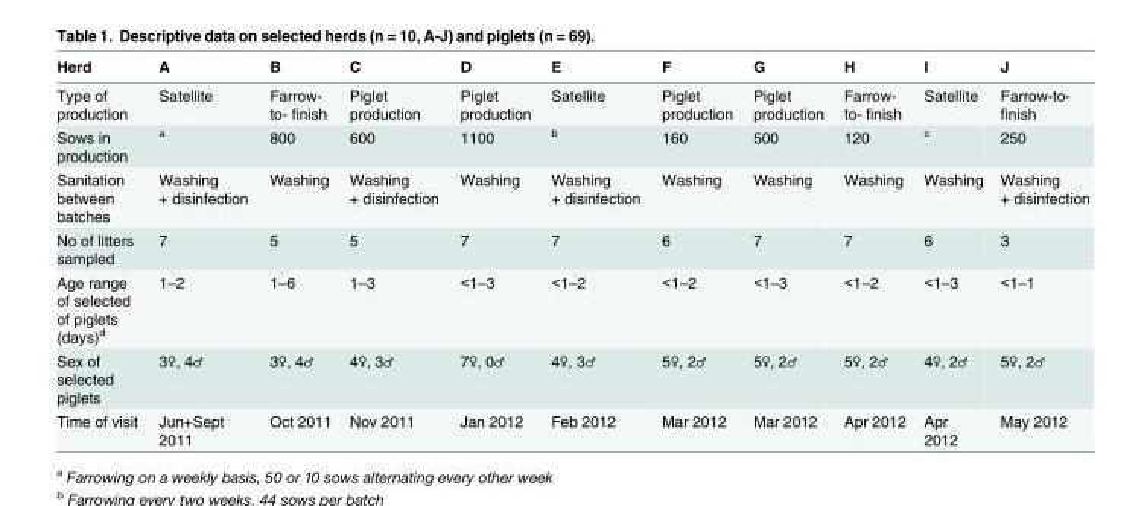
<table><thead><tr><td>Herd</td><td>A</td><td>B</td><td>C</td><td>D</td><td>E</td><td>F</td><td>G</td><td>H</td><td>I</td><td>J</td></tr></thead><tbody><tr><td>Type of production</td><td>Satellite</td><td>Farrow- to- finish</td><td>Piglet production</td><td>Piglet production</td><td>Satellite</td><td>Piglet production</td><td>Piglet production</td><td>Farrow- to- finish</td><td>Satellite</td><td>Farrow-to- finish</td></tr><tr><td>Sows in production</td><td><sup>a</sup></td><td>800</td><td>600</td><td>1100</td><td><sup>b</sup></td><td>160</td><td>500</td><td>120</td><td><sup>c</sup></td><td>250</td></tr><tr><td>Sanitation between batches</td><td>Washing + disinfection</td><td>Washing</td><td>Washing + disinfection</td><td>Washing</td><td>Washing + disinfection</td><td>Washing</td><td>Washing</td><td>Washing</td><td>Washing</td><td>Washing + disinfection</td></tr><tr><td>No of litters sampled</td><td>7</td><td>5</td><td>5</td><td>7</td><td>7</td><td>6</td><td>7</td><td>7</td><td>6</td><td>3</td></tr><tr><td>Age range of selected of piglets (days)<sup>d</sup></td><td>1–2</td><td>1–6</td><td>1–3</td><td>&lt;1–3</td><td>&lt;1–2</td><td>&lt;1–2</td><td>&lt;1–3</td><td>&lt;1–2</td><td>&lt;1–3</td><td>&lt;1–1</td></tr><tr><td>Sex of selected piglets</td><td>3♀, 4♂</td><td>3♀, 4♂</td><td>4♀, 3♂</td><td>7♀, 0♂</td><td>4♀, 3♂</td><td>5♀, 2♂</td><td>5♀, 2♂</td><td>5♀, 2♂</td><td>4♀, 2♂</td><td>5♀, 2♂</td></tr><tr><td>Time of visit</td><td>Jun+Sept 2011</td><td>Oct 2011</td><td>Nov 2011</td><td>Jan 2012</td><td>Feb 2012</td><td>Mar 2012</td><td>Mar 2012</td><td>Apr 2012</td><td>Apr 2012</td><td>May 2012</td></tr></tbody></table>